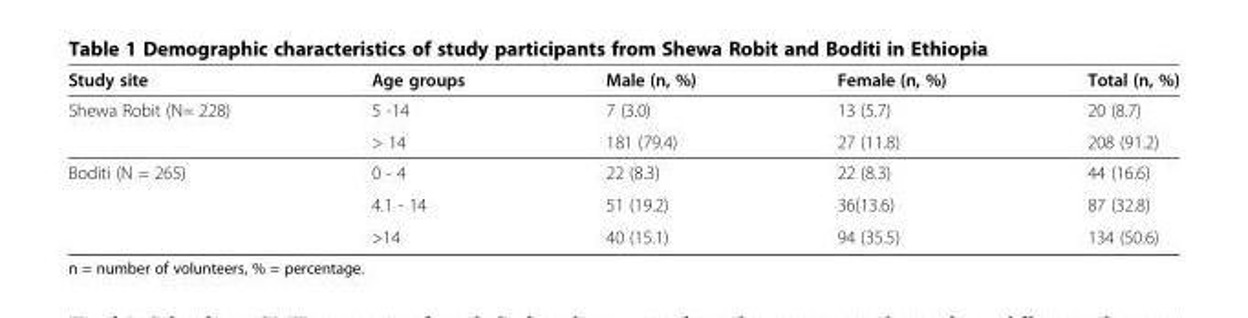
<table><thead><tr><td>Study site</td><td>Age groups</td><td>Male (n, %)</td><td>Female (n, %)</td><td>Total (n, %)</td></tr></thead><tbody><tr><td rowspan="2">Shewa Robit (N= 228)</td><td>5 -14</td><td>7 (3.0)</td><td>13 (5.7)</td><td>20 (8.7)</td></tr><tr><td>&gt; 14</td><td>181 (79.4)</td><td>27 (11.8)</td><td>208 (91.2)</td></tr><tr><td rowspan="3">Boditi (N = 265)</td><td>0 - 4</td><td>22 (8.3)</td><td>22 (8.3)</td><td>44 (16.6)</td></tr><tr><td>4.1 - 14</td><td>51 (19.2)</td><td>36(13.6)</td><td>87 (32.8)</td></tr><tr><td>&gt;14</td><td>40 (15.1)</td><td>94 (35.5)</td><td>134 (50.6)</td></tr></tbody></table>